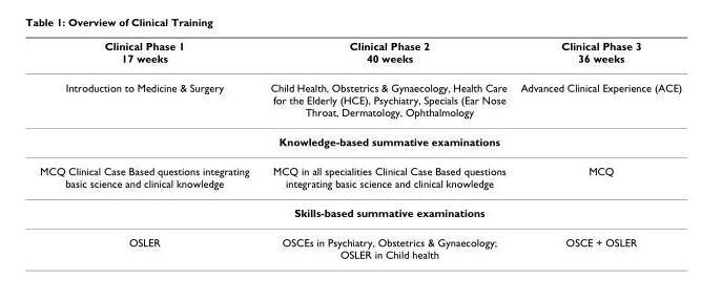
<table><thead><tr><td>Clinical Phase 1 17 weeks</td><td>Clinical Phase 2 40 weeks</td><td>Clinical Phase 3 36 weeks</td></tr></thead><tbody><tr><td rowspan="2">Introduction to Medicine &amp; Surgery</td><td>Child Health, Obstetrics &amp; Gynaecology, Health Care for the Elderly (HCE), Psychiatry, Specials (Ear Nose Throat, Dermatology, Ophthalmology</td><td>Advanced Clinical Experience (ACE)</td></tr><tr><td>Knowledge-based summative examinations</td><td></td></tr><tr><td rowspan="2">MCQ Clinical Case Based questions integrating basic science and clinical knowledge</td><td>MCQ in all specialities Clinical Case Based questions integrating basic science and clinical knowledge</td><td>MCQ</td></tr><tr><td>Skills-based summative examinations</td><td></td></tr><tr><td>OSLER</td><td>OSCEs in Psychiatry, Obstetrics &amp; Gynaecology; OSLER in Child health</td><td>OSCE + OSLER</td></tr></tbody></table>